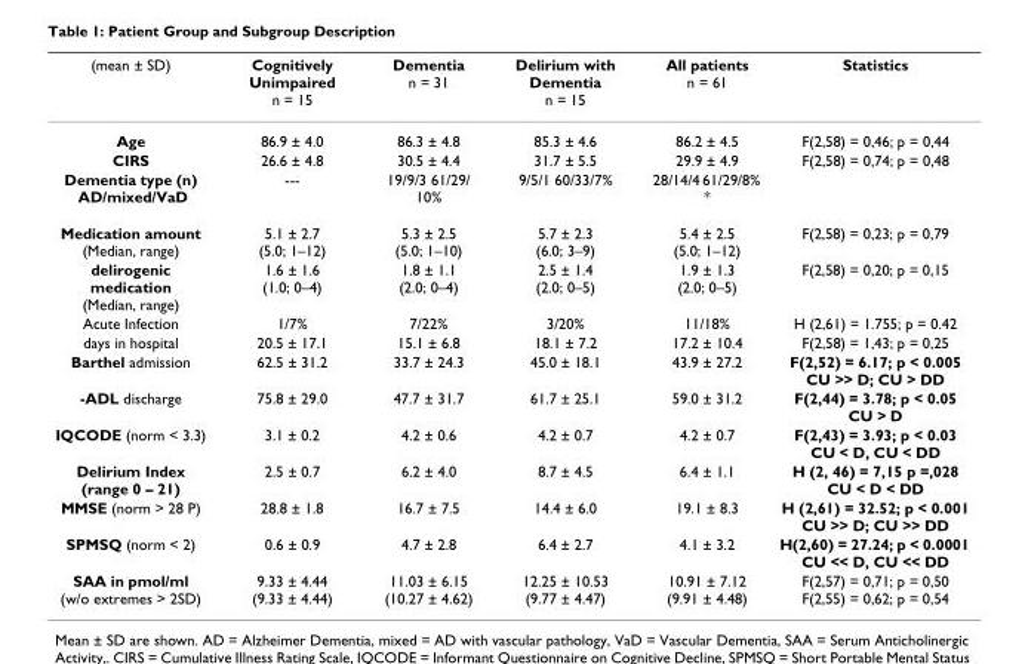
<table><thead><tr><td>(mean ± SD)</td><td>Cognitively Unimpaired n = 15</td><td>Dementia n = 31</td><td>Delirium with Dementia n = 15</td><td>All patients n = 61</td><td>Statistics</td></tr></thead><tbody><tr><td>Age</td><td>86.9 ± 4.0</td><td>86.3 ± 4.8</td><td>85.3 ± 4.6</td><td>86.2 ± 4.5</td><td>F(2,58) = 0,46; p = 0,44</td></tr><tr><td>CIRS</td><td>26.6 ± 4.8</td><td>30.5 ± 4.4</td><td>31.7 ± 5.5</td><td>29.9 ± 4.9</td><td>F(2,58) = 0,74; p = 0,48</td></tr><tr><td>Dementia type (n) AD/mixed/VaD</td><td>---</td><td>19/9/3 61/29/ 10%</td><td>9/5/1 60/33/7%</td><td>28/14/4 61/29/8% *</td><td></td></tr><tr><td>Medication amount (Median, range)</td><td>5.1 ± 2.7 (5.0; 1–12)</td><td>5.3 ± 2.5 (5.0; 1–10)</td><td>5.7 ± 2.3 (6.0; 3–9)</td><td>5.4 ± 2.5 (5.0; 1–12)</td><td>F(2,58) = 0,23; p = 0,79</td></tr><tr><td>delirogenic medication (Median, range)</td><td>1.6 ± 1.6 (1.0; 0–4)</td><td>1.8 ± 1.1 (2.0; 0–4)</td><td>2.5 ± 1.4 (2.0; 0–5)</td><td>1.9 ± 1.3 (2.0; 0–5)</td><td>F(2,58) = 0,20; p = 0,15</td></tr><tr><td>Acute Infection</td><td>1/7%</td><td>7/22%</td><td>3/20%</td><td>11/18%</td><td>H (2,61) = 1.755; p = 0.42</td></tr><tr><td>days in hospital</td><td>20.5 ± 17.1</td><td>15.1 ± 6.8</td><td>18.1 ± 7.2</td><td>17.2 ± 10.4</td><td>F(2,58) = 1,43; p = 0,25</td></tr><tr><td>Barthel admission</td><td>62.5 ± 31.2</td><td>33.7 ± 24.3</td><td>45.0 ± 18.1</td><td>43.9 ± 27.2</td><td>F(2,52) = 6.17; p &lt; 0.005 CU &gt;&gt; D; CU &gt; DD</td></tr><tr><td>-ADL discharge</td><td>75.8 ± 29.0</td><td>47.7 ± 31.7</td><td>61.7 ± 25.1</td><td>59.0 ± 31.2</td><td>F(2,44) = 3.78; p &lt; 0.05 CU &gt; D</td></tr><tr><td>IQCODE (norm &lt; 3.3)</td><td>3.1 ± 0.2</td><td>4.2 ± 0.6</td><td>4.2 ± 0.7</td><td>4.2 ± 0.7</td><td>F(2,43) = 3.93; p &lt; 0.03 CU &lt; D, CU &lt; DD</td></tr><tr><td>Delirium Index (range 0 – 21)</td><td>2.5 ± 0.7</td><td>6.2 ± 4.0</td><td>8.7 ± 4.5</td><td>6.4 ± 1.1</td><td>H (2, 46) = 7,15 p =,028 CU &lt; D &lt; DD</td></tr><tr><td>MMSE (norm &gt; 28 P)</td><td>28.8 ± 1.8</td><td>16.7 ± 7.5</td><td>14.4 ± 6.0</td><td>19.1 ± 8.3</td><td>H (2,61) = 32.52; p &lt; 0.001 CU &gt;&gt; D; CU &gt;&gt; DD</td></tr><tr><td>SPMSQ (norm &lt; 2)</td><td>0.6 ± 0.9</td><td>4.7 ± 2.8</td><td>6.4 ± 2.7</td><td>4.1 ± 3.2</td><td>H(2,60) = 27.24; p &lt; 0.0001 CU &lt;&lt; D, CU &lt;&lt; DD</td></tr><tr><td>SAA in pmol/ml (w/o extremes &gt; 2SD)</td><td>9.33 ± 4.44 (9.33 ± 4.44)</td><td>11.03 ± 6.15 (10.27 ± 4.62)</td><td>12.25 ± 10.53 (9.77 ± 4.47)</td><td>10.91 ± 7.12 (9.91 ± 4.48)</td><td>F(2,57) = 0,71; p = 0,50 F(2,55) = 0,62; p = 0,54</td></tr></tbody></table>